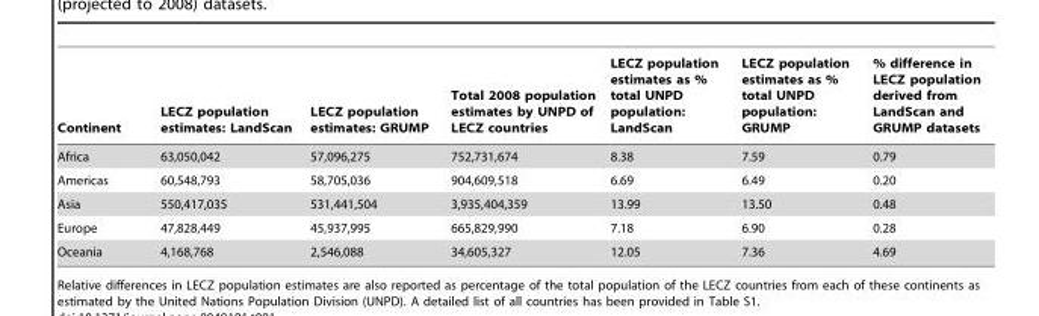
<table><thead><tr><td>Continent</td><td>LECZ population estimates: LandScan</td><td>LECZ population estimates: GRUMP</td><td>Total 2008 population estimates by UNPD of LECZ countries</td><td>LECZ population estimates as % total UNPD population: LandScan</td><td>LECZ population estimates as % total UNPD population: GRUMP</td><td>% difference in LECZ population derived from LandScan and GRUMP datasets</td></tr></thead><tbody><tr><td>Africa</td><td>63,050,042</td><td>57,096,275</td><td>752,731,674</td><td>8.38</td><td>7.59</td><td>0.79</td></tr><tr><td>Americas</td><td>60,548,793</td><td>58,705,036</td><td>904,609,518</td><td>6.69</td><td>6.49</td><td>0.20</td></tr><tr><td>Asia</td><td>550,417,035</td><td>531,441,504</td><td>3,935,404,359</td><td>13.99</td><td>13.50</td><td>0.48</td></tr><tr><td>Europe</td><td>47,828,449</td><td>45,937,995</td><td>665,829,990</td><td>7.18</td><td>6.90</td><td>0.28</td></tr><tr><td>Oceania</td><td>4,168,768</td><td>2,546,088</td><td>34,605,327</td><td>12.05</td><td>7.36</td><td>4.69</td></tr></tbody></table>